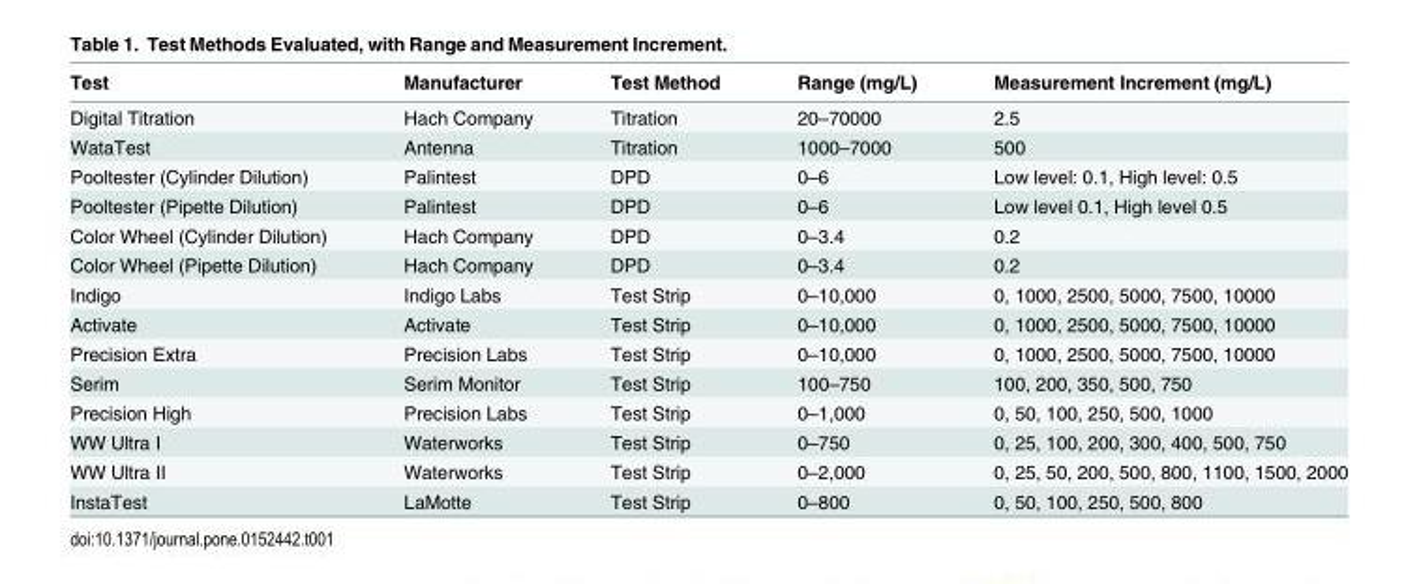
<table><thead><tr><td>Test</td><td>Manufacturer</td><td>Test Method</td><td>Range (mg/L)</td><td>Measurement Increment (mg/L)</td></tr></thead><tbody><tr><td>Digital Titration</td><td>Hach Company</td><td>Titration</td><td>20–70000</td><td>2.5</td></tr><tr><td>WataTest</td><td>Antenna</td><td>Titration</td><td>1000–7000</td><td>500</td></tr><tr><td>Pooltester (Cylinder Dilution)</td><td>Palintest</td><td>DPD</td><td>0–6</td><td>Low level: 0.1, High level: 0.5</td></tr><tr><td>Pooltester (Pipette Dilution)</td><td>Palintest</td><td>DPD</td><td>0–6</td><td>Low level 0.1, High level 0.5</td></tr><tr><td>Color Wheel (Cylinder Dilution)</td><td>Hach Company</td><td>DPD</td><td>0–3.4</td><td>0.2</td></tr><tr><td>Color Wheel (Pipette Dilution)</td><td>Hach Company</td><td>DPD</td><td>0–3.4</td><td>0.2</td></tr><tr><td>Indigo</td><td>Indigo Labs</td><td>Test Strip</td><td>0–10,000</td><td>0, 1000, 2500, 5000, 7500, 10000</td></tr><tr><td>Activate</td><td>Activate</td><td>Test Strip</td><td>0–10,000</td><td>0, 1000, 2500, 5000, 7500, 10000</td></tr><tr><td>Precision Extra</td><td>Precision Labs</td><td>Test Strip</td><td>0–10,000</td><td>0, 1000, 2500, 5000, 7500, 10000</td></tr><tr><td>Serim</td><td>Serim Monitor</td><td>Test Strip</td><td>100–750</td><td>100, 200, 350, 500, 750</td></tr><tr><td>Precision High</td><td>Precision Labs</td><td>Test Strip</td><td>0–1,000</td><td>0, 50, 100, 250, 500, 1000</td></tr><tr><td>WW Ultra I</td><td>Waterworks</td><td>Test Strip</td><td>0–750</td><td>0, 25, 100, 200, 300, 400, 500, 750</td></tr><tr><td>WW Ultra II</td><td>Waterworks</td><td>Test Strip</td><td>0–2,000</td><td>0, 25, 50, 200, 500, 800, 1100, 1500, 2000</td></tr><tr><td>InstaTest</td><td>LaMotte</td><td>Test Strip</td><td>0–800</td><td>0, 50, 100, 250, 500, 800</td></tr></tbody></table>